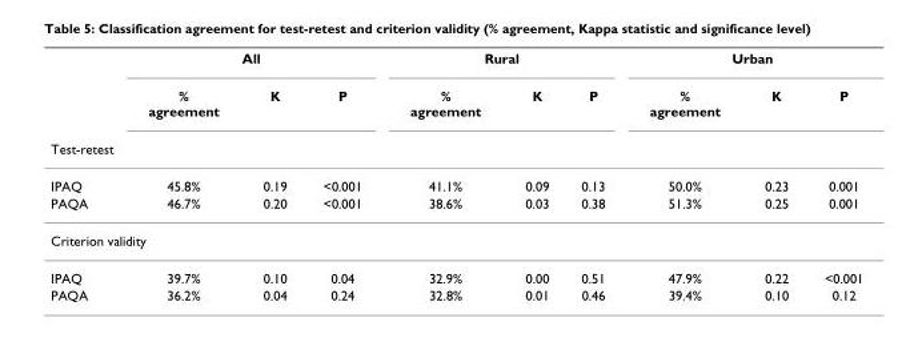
<table><thead><tr><td rowspan="2"></td><td colspan="3">All</td><td colspan="3">Rural</td><td colspan="3">Urban</td></tr><tr><td>% agreement</td><td>K</td><td>P</td><td>% agreement</td><td>K</td><td>P</td><td>% agreement</td><td>K</td><td>P</td></tr><tr><td colspan="10">Test-retest</td></tr></thead><tbody><tr><td>IPAQ</td><td>45.8%</td><td>0.19</td><td>&lt;0.001</td><td>41.1%</td><td>0.09</td><td>0.13</td><td>50.0%</td><td>0.23</td><td>0.001</td></tr><tr><td>PAQA</td><td>46.7%</td><td>0.20</td><td>&lt;0.001</td><td>38.6%</td><td>0.03</td><td>0.38</td><td>51.3%</td><td>0.25</td><td>0.001</td></tr><tr><td colspan="10">Criterion validity</td></tr><tr><td>IPAQ</td><td>39.7%</td><td>0.10</td><td>0.04</td><td>32.9%</td><td>0.00</td><td>0.51</td><td>47.9%</td><td>0.22</td><td>&lt;0.001</td></tr><tr><td>PAQA</td><td>36.2%</td><td>0.04</td><td>0.24</td><td>32.8%</td><td>0.01</td><td>0.46</td><td>39.4%</td><td>0.10</td><td>0.12</td></tr></tbody></table>